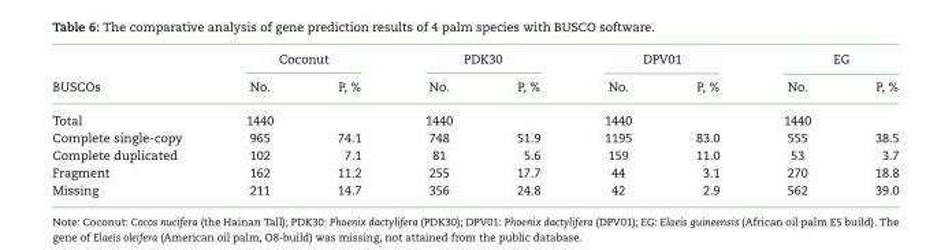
<table><thead><tr><td rowspan="2">BUSCOs</td><td colspan="2">Coconut</td><td colspan="2">PDK30</td><td colspan="2">DPV01</td><td colspan="2">EG</td></tr><tr><td>No.</td><td>P, %</td><td>No.</td><td>P, %</td><td>No.</td><td>P, %</td><td>No.</td><td>P, %</td></tr></thead><tbody><tr><td>Total</td><td>1440</td><td></td><td>1440</td><td></td><td>1440</td><td></td><td>1440</td><td></td></tr><tr><td>Complete single-copy</td><td>965</td><td>74.1</td><td>748</td><td>51.9</td><td>1195</td><td>83.0</td><td>555</td><td>38.5</td></tr><tr><td>Complete duplicated</td><td>102</td><td>7.1</td><td>81</td><td>5.6</td><td>159</td><td>11.0</td><td>53</td><td>3.7</td></tr><tr><td>Fragment</td><td>162</td><td>11.2</td><td>255</td><td>17.7</td><td>44</td><td>3.1</td><td>270</td><td>18.8</td></tr><tr><td>Missing</td><td>211</td><td>14.7</td><td>356</td><td>24.8</td><td>42</td><td>2.9</td><td>562</td><td>39.0</td></tr></tbody></table>